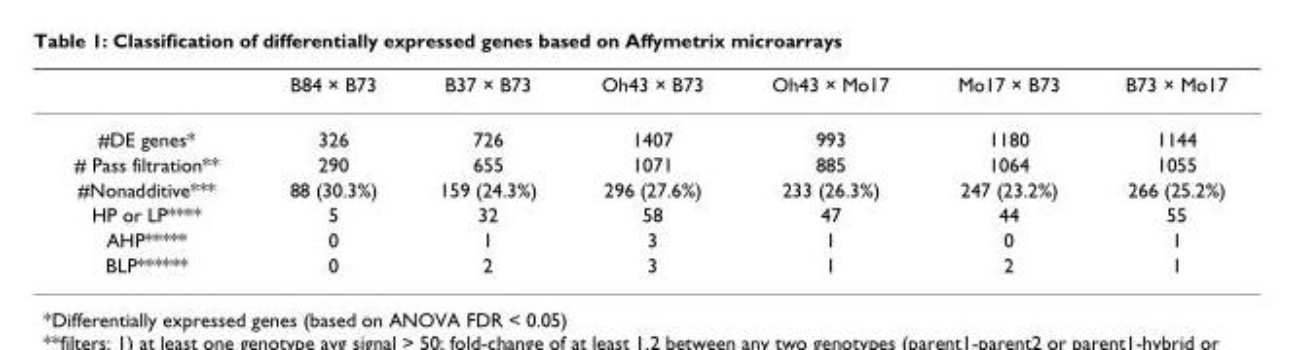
<table><thead><tr><td></td><td>B84 × B73</td><td>B37 × B73</td><td>Oh43 × B73</td><td>Oh43 × Mo17</td><td>Mo17 × B73</td><td>B73 × Mo17</td></tr></thead><tbody><tr><td>#DE genes*</td><td>326</td><td>726</td><td>1407</td><td>993</td><td>1180</td><td>1144</td></tr><tr><td># Pass filtration**</td><td>290</td><td>655</td><td>1071</td><td>885</td><td>1064</td><td>1055</td></tr><tr><td>#Nonadditive***</td><td>88 (30.3%)</td><td>159 (24.3%)</td><td>296 (27.6%)</td><td>233 (26.3%)</td><td>247 (23.2%)</td><td>266 (25.2%)</td></tr><tr><td>HP or LP****</td><td>5</td><td>32</td><td>58</td><td>47</td><td>44</td><td>55</td></tr><tr><td>AHP*****</td><td>0</td><td>1</td><td>3</td><td>1</td><td>0</td><td>1</td></tr><tr><td>BLP******</td><td>0</td><td>2</td><td>3</td><td>1</td><td>2</td><td>1</td></tr></tbody></table>